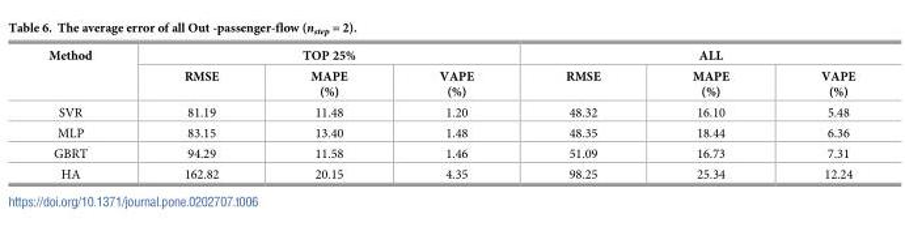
<table><thead><tr><td rowspan="2">Method</td><td colspan="3">TOP 25%</td><td colspan="3">ALL</td></tr><tr><td>RMSE</td><td>MAPE (%)</td><td>VAPE (%)</td><td>RMSE</td><td>MAPE (%)</td><td>VAPE (%)</td></tr></thead><tbody><tr><td>SVR</td><td>81.19</td><td>11.48</td><td>1.20</td><td>48.32</td><td>16.10</td><td>5.48</td></tr><tr><td>MLP</td><td>83.15</td><td>13.40</td><td>1.48</td><td>48.35</td><td>18.44</td><td>6.36</td></tr><tr><td>GBRT</td><td>94.29</td><td>11.58</td><td>1.46</td><td>51.09</td><td>16.73</td><td>7.31</td></tr><tr><td>HA</td><td>162.82</td><td>20.15</td><td>4.35</td><td>98.25</td><td>25.34</td><td>12.24</td></tr></tbody></table>